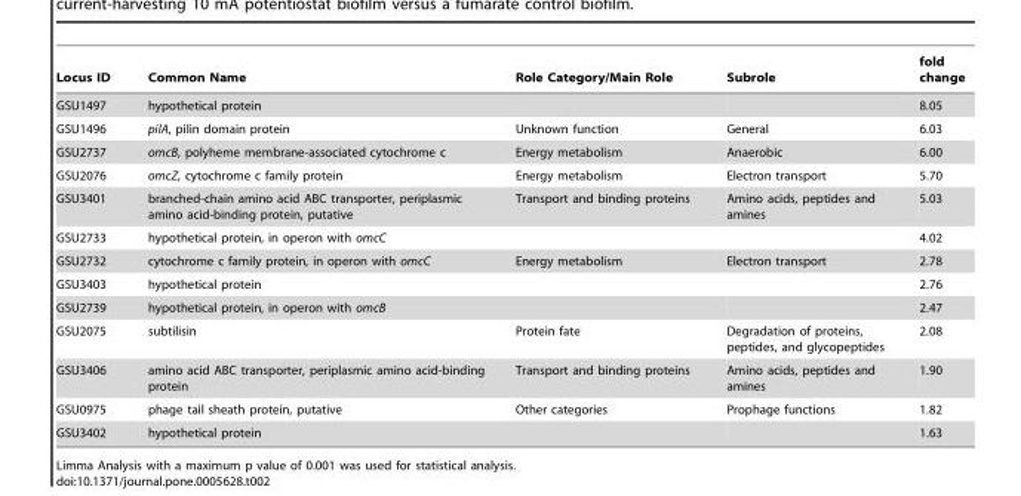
<table><thead><tr><td>Locus ID</td><td>Common Name</td><td>Role Category/Main Role</td><td>Subrole</td><td>fold change</td></tr></thead><tbody><tr><td>GSU1497</td><td>hypothetical protein</td><td></td><td></td><td>8.05</td></tr><tr><td>GSU1496</td><td>pilA, pilin domain protein</td><td>Unknown function</td><td>General</td><td>6.03</td></tr><tr><td>GSU2737</td><td>omcB, polyheme membrane-associated cytochrome c</td><td>Energy metabolism</td><td>Anaerobic</td><td>6.00</td></tr><tr><td>GSU2076</td><td>omcZ, cytochrome c family protein</td><td>Energy metabolism</td><td>Electron transport</td><td>5.70</td></tr><tr><td>GSU3401</td><td>branched-chain amino acid ABC transporter, periplasmic amino acid-binding protein, putative</td><td>Transport and binding proteins</td><td>Amino acids, peptides and amines</td><td>5.03</td></tr><tr><td>GSU2733</td><td>hypothetical protein, in operon with omcC</td><td></td><td></td><td>4.02</td></tr><tr><td>GSU2732</td><td>cytochrome c family protein, in operon with omcC</td><td>Energy metabolism</td><td>Electron transport</td><td>2.78</td></tr><tr><td>GSU3403</td><td>hypothetical protein</td><td></td><td></td><td>2.76</td></tr><tr><td>GSU2739</td><td>hypothetical protein, in operon with omcB</td><td></td><td></td><td>2.47</td></tr><tr><td>GSU2075</td><td>subtilisin</td><td>Protein fate</td><td>Degradation of proteins, peptides, and glycopeptides</td><td>2.08</td></tr><tr><td>GSU3406</td><td>amino acid ABC transporter, periplasmic amino acid-binding protein</td><td>Transport and binding proteins</td><td>Amino acids, peptides and amines</td><td>1.90</td></tr><tr><td>GSU0975</td><td>phage tail sheath protein, putative</td><td>Other categories</td><td>Prophage functions</td><td>1.82</td></tr><tr><td>GSU3402</td><td>hypothetical protein</td><td></td><td></td><td>1.63</td></tr></tbody></table>